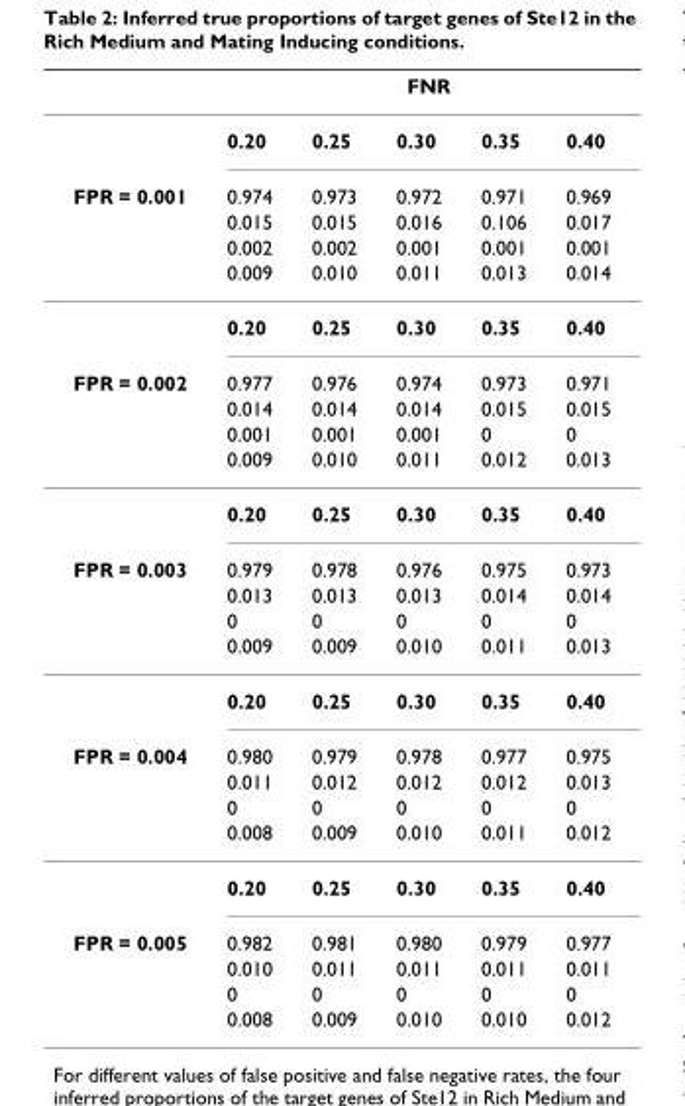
<table><thead><tr><td rowspan="2"></td><td colspan="5">FNR</td></tr><tr><td>0.20</td><td>0.25</td><td>0.30</td><td>0.35</td><td>0.40</td></tr></thead><tbody><tr><td rowspan="5">FPR = 0.001</td><td>0.974</td><td>0.973</td><td>0.972</td><td>0.971</td><td>0.969</td></tr><tr><td>0.015</td><td>0.015</td><td>0.016</td><td>0.106</td><td>0.017</td></tr><tr><td>0.002</td><td>0.002</td><td>0.001</td><td>0.001</td><td>0.001</td></tr><tr><td>0.009</td><td>0.010</td><td>0.011</td><td>0.013</td><td>0.014</td></tr><tr><td>0.20</td><td>0.25</td><td>0.30</td><td>0.35</td><td>0.40</td></tr><tr><td rowspan="5">FPR = 0.002</td><td>0.977</td><td>0.976</td><td>0.974</td><td>0.973</td><td>0.971</td></tr><tr><td>0.014</td><td>0.014</td><td>0.014</td><td>0.015</td><td>0.015</td></tr><tr><td>0.001</td><td>0.001</td><td>0.001</td><td>0</td><td>0</td></tr><tr><td>0.009</td><td>0.010</td><td>0.011</td><td>0.012</td><td>0.013</td></tr><tr><td>0.20</td><td>0.25</td><td>0.30</td><td>0.35</td><td>0.40</td></tr><tr><td rowspan="5">FPR = 0.003</td><td>0.979</td><td>0.978</td><td>0.976</td><td>0.975</td><td>0.973</td></tr><tr><td>0.013</td><td>0.013</td><td>0.013</td><td>0.014</td><td>0.014</td></tr><tr><td>0</td><td>0</td><td>0</td><td>0</td><td>0</td></tr><tr><td>0.009</td><td>0.009</td><td>0.010</td><td>0.011</td><td>0.013</td></tr><tr><td>0.20</td><td>0.25</td><td>0.30</td><td>0.35</td><td>0.40</td></tr><tr><td rowspan="5">FPR = 0.004</td><td>0.980</td><td>0.979</td><td>0.978</td><td>0.977</td><td>0.975</td></tr><tr><td>0.011</td><td>0.012</td><td>0.012</td><td>0.012</td><td>0.013</td></tr><tr><td>0</td><td>0</td><td>0</td><td>0</td><td>0</td></tr><tr><td>0.008</td><td>0.009</td><td>0.010</td><td>0.011</td><td>0.012</td></tr><tr><td>0.20</td><td>0.25</td><td>0.30</td><td>0.35</td><td>0.40</td></tr><tr><td rowspan="4">FPR = 0.005</td><td>0.982</td><td>0.981</td><td>0.980</td><td>0.979</td><td>0.977</td></tr><tr><td>0.010</td><td>0.011</td><td>0.011</td><td>0.011</td><td>0.011</td></tr><tr><td>0</td><td>0</td><td>0</td><td>0</td><td>0</td></tr><tr><td>0.008</td><td>0.009</td><td>0.010</td><td>0.010</td><td>0.012</td></tr></tbody></table>